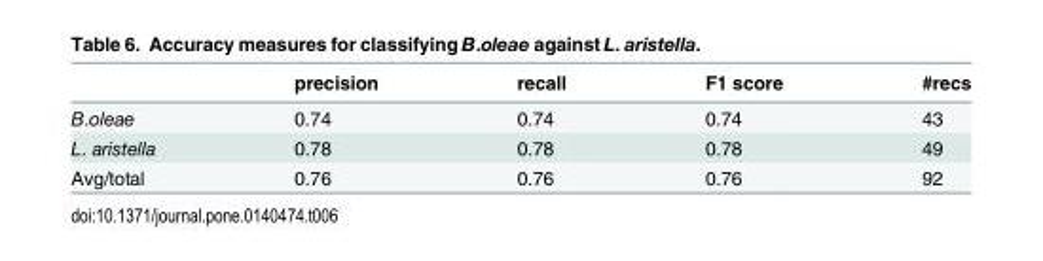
<table><thead><tr><td></td><td>precision</td><td>recall</td><td>F1 score</td><td>#recs</td></tr></thead><tbody><tr><td>B.oleae</td><td>0.74</td><td>0.74</td><td>0.74</td><td>43</td></tr><tr><td>L. aristella</td><td>0.78</td><td>0.78</td><td>0.78</td><td>49</td></tr><tr><td>Avg/total</td><td>0.76</td><td>0.76</td><td>0.76</td><td>92</td></tr></tbody></table>